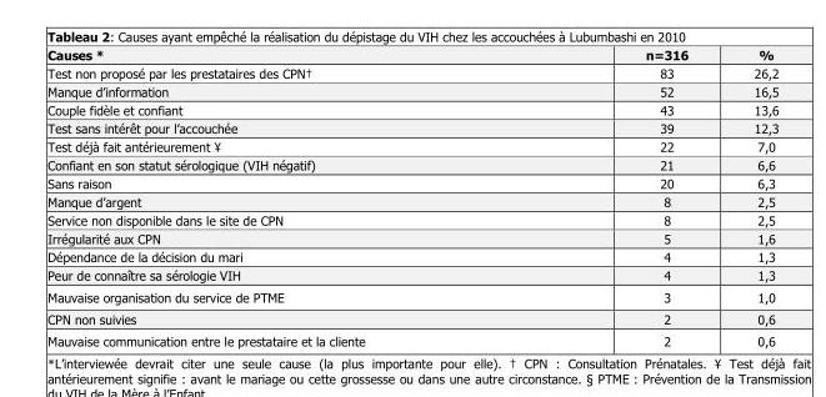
<table><thead><tr><td>Causes *</td><td>n=316</td><td>%</td></tr></thead><tbody><tr><td>Test non proposé par les prestataires des CPN†</td><td>83</td><td>26,2</td></tr><tr><td>Manque d’information</td><td>52</td><td>16,5</td></tr><tr><td>Couple fidèle et confiant</td><td>43</td><td>13,6</td></tr><tr><td>Test sans intérêt pour l’accouchée</td><td>39</td><td>12,3</td></tr><tr><td>Test déjà fait antérieurement ¥</td><td>22</td><td>7,0</td></tr><tr><td>Confiant en son statut sérologique (VIH négatif)</td><td>21</td><td>6,6</td></tr><tr><td>Sans raison</td><td>20</td><td>6,3</td></tr><tr><td>Manque d’argent</td><td>8</td><td>2,5</td></tr><tr><td>Service non disponible dans le site de CPN</td><td>8</td><td>2,5</td></tr><tr><td>Irrégularité aux CPN</td><td>5</td><td>1,6</td></tr><tr><td>Dépendance de la décision du mari</td><td>4</td><td>1,3</td></tr><tr><td>Peur de connaître sa sérologie VIH</td><td>4</td><td>1,3</td></tr><tr><td>Mauvaise organisation du service de PTME</td><td>3</td><td>1,0</td></tr><tr><td>CPN non suivies</td><td>2</td><td>0,6</td></tr><tr><td>Mauvaise communication entre le prestataire et la cliente</td><td>2</td><td>0,6</td></tr></tbody></table>